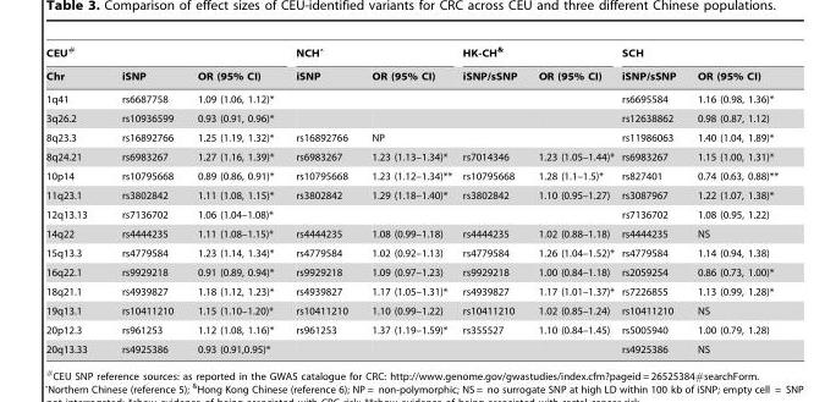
<table><thead><tr><td colspan="3">CEU#</td><td colspan="2">NCHˆ</td><td colspan="2">HK-CH<sup>&amp;</sup></td><td colspan="2">SCH</td></tr><tr><td>Chr</td><td>iSNP</td><td>OR (95% CI)</td><td>iSNP</td><td>OR (95% CI)</td><td>iSNP/sSNP</td><td>OR (95% CI)</td><td>iSNP/sSNP</td><td>OR (95% CI)</td></tr></thead><tbody><tr><td>1q41</td><td>rs6687758</td><td>1.09 (1.06, 1.12)*</td><td></td><td></td><td></td><td></td><td>rs6695584</td><td>1.16 (0.98, 1.36)*</td></tr><tr><td>3q26.2</td><td>rs10936599</td><td>0.93 (0.91, 0.96)*</td><td></td><td></td><td></td><td></td><td>rs12638862</td><td>0.98 (0.87, 1.12)</td></tr><tr><td>8q23.3</td><td>rs16892766</td><td>1.25 (1.19, 1.32)*</td><td>rs16892766</td><td>NP</td><td></td><td></td><td>rs11986063</td><td>1.40 (1.04, 1.89)*</td></tr><tr><td>8q24.21</td><td>rs6983267</td><td>1.27 (1.16, 1.39)*</td><td>rs6983267</td><td>1.23 (1.13–1.34)*</td><td>rs7014346</td><td>1.23 (1.05–1.44)*</td><td>rs6983267</td><td>1.15 (1.00, 1.31)*</td></tr><tr><td>10p14</td><td>rs10795668</td><td>0.89 (0.86, 0.91)*</td><td>rs10795668</td><td>1.23 (1.12–1.34)**</td><td>rs10795668</td><td>1.28 (1.1–1.5)*</td><td>rs827401</td><td>0.74 (0.63, 0.88)**</td></tr><tr><td>11q23.1</td><td>rs3802842</td><td>1.11 (1.08, 1.15)*</td><td>rs3802842</td><td>1.29 (1.18–1.40)*</td><td>rs3802842</td><td>1.10 (0.95–1.27)</td><td>rs3087967</td><td>1.22 (1.07, 1.38)*</td></tr><tr><td>12q13.13</td><td>rs7136702</td><td>1.06 (1.04–1.08)*</td><td></td><td></td><td></td><td></td><td>rs7136702</td><td>1.08 (0.95, 1.22)</td></tr><tr><td>14q22</td><td>rs4444235</td><td>1.11 (1.08–1.15)*</td><td>rs4444235</td><td>1.08 (0.99–1.18)</td><td>rs4444235</td><td>1.02 (0.88–1.18)</td><td>rs4444235</td><td>NS</td></tr><tr><td>15q13.3</td><td>rs4779584</td><td>1.23 (1.14, 1.34)*</td><td>rs4779584</td><td>1.02 (0.92–1.13)</td><td>rs4779584</td><td>1.26 (1.04–1.52)*</td><td>rs4779584</td><td>1.14 (0.94, 1.38)</td></tr><tr><td>16q22.1</td><td>rs9929218</td><td>0.91 (0.89, 0.94)*</td><td>rs9929218</td><td>1.09 (0.97–1.23)</td><td>rs9929218</td><td>1.00 (0.84–1.18)</td><td>rs2059254</td><td>0.86 (0.73, 1.00)*</td></tr><tr><td>18q21.1</td><td>rs4939827</td><td>1.18 (1.12, 1.23)*</td><td>rs4939827</td><td>1.17 (1.05–1.31)*</td><td>rs4939827</td><td>1.17 (1.01–1.37)*</td><td>rs7226855</td><td>1.13 (0.99, 1.28)*</td></tr><tr><td>19q13.1</td><td>rs10411210</td><td>1.15 (1.10–1.20)*</td><td>rs10411210</td><td>1.10 (0.99–1.22)</td><td>rs10411210</td><td>1.02 (0.85–1.24)</td><td>rs10411210</td><td>NS</td></tr><tr><td>20p12.3</td><td>rs961253</td><td>1.12 (1.08, 1.16)*</td><td>rs961253</td><td>1.37 (1.19–1.59)*</td><td>rs355527</td><td>1.10 (0.84–1.45)</td><td>rs5005940</td><td>1.00 (0.79, 1.28)</td></tr><tr><td>20q13.33</td><td>rs4925386</td><td>0.93 (0.91,0.95)*</td><td></td><td></td><td></td><td></td><td>rs4925386</td><td>NS</td></tr></tbody></table>